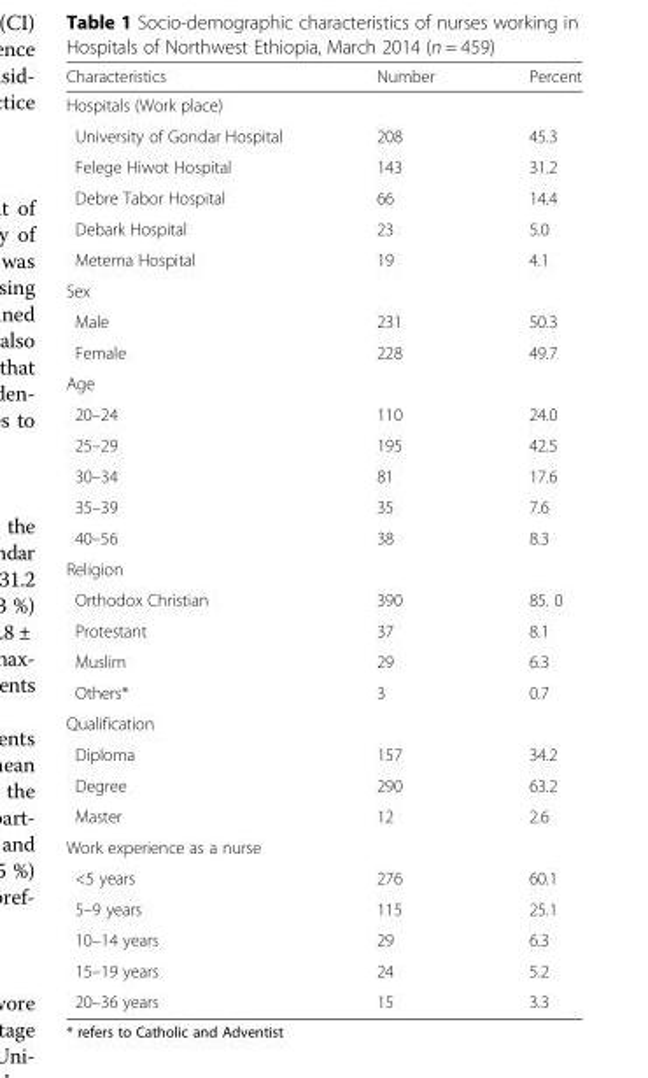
<table><thead><tr><td>Characteristics</td><td>Number</td><td>Percent</td></tr></thead><tbody><tr><td colspan="3">Hospitals (Work place)</td></tr><tr><td>University of Gondar Hospital</td><td>208</td><td>45.3</td></tr><tr><td>Felege Hiwot Hospital</td><td>143</td><td>31.2</td></tr><tr><td>Debre Tabor Hospital</td><td>66</td><td>14.4</td></tr><tr><td>Debark Hospital</td><td>23</td><td>5.0</td></tr><tr><td>Metema Hospital</td><td>19</td><td>4.1</td></tr><tr><td colspan="3">Sex</td></tr><tr><td>Male</td><td>231</td><td>50.3</td></tr><tr><td>Female</td><td>228</td><td>49.7</td></tr><tr><td colspan="3">Age</td></tr><tr><td>20–24</td><td>110</td><td>24.0</td></tr><tr><td>25–29</td><td>195</td><td>42.5</td></tr><tr><td>30–34</td><td>81</td><td>17.6</td></tr><tr><td>35–39</td><td>35</td><td>7.6</td></tr><tr><td>40–56</td><td>38</td><td>8.3</td></tr><tr><td colspan="3">Religion</td></tr><tr><td>Orthodox Christian</td><td>390</td><td>85. 0</td></tr><tr><td>Protestant</td><td>37</td><td>8.1</td></tr><tr><td>Muslim</td><td>29</td><td>6.3</td></tr><tr><td>Others*</td><td>3</td><td>0.7</td></tr><tr><td colspan="3">Qualification</td></tr><tr><td>Diploma</td><td>157</td><td>34.2</td></tr><tr><td>Degree</td><td>290</td><td>63.2</td></tr><tr><td>Master</td><td>12</td><td>2.6</td></tr><tr><td colspan="3">Work experience as a nurse</td></tr><tr><td>&lt;5 years</td><td>276</td><td>60.1</td></tr><tr><td>5–9 years</td><td>115</td><td>25.1</td></tr><tr><td>10–14 years</td><td>29</td><td>6.3</td></tr><tr><td>15–19 years</td><td>24</td><td>5.2</td></tr><tr><td>20–36 years</td><td>15</td><td>3.3</td></tr></tbody></table>